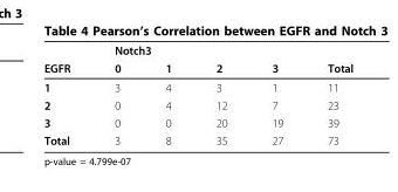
<table><thead><tr><td rowspan="2">EGFR</td><td colspan="4">Notch3</td><td rowspan="2">Total</td></tr><tr><td>0</td><td>1</td><td>2</td><td>3</td></tr></thead><tbody><tr><td>1</td><td>3</td><td>4</td><td>3</td><td>1</td><td>11</td></tr><tr><td>2</td><td>0</td><td>4</td><td>12</td><td>7</td><td>23</td></tr><tr><td>3</td><td>0</td><td>0</td><td>20</td><td>19</td><td>39</td></tr><tr><td>Total</td><td>3</td><td>8</td><td>35</td><td>27</td><td>73</td></tr></tbody></table>